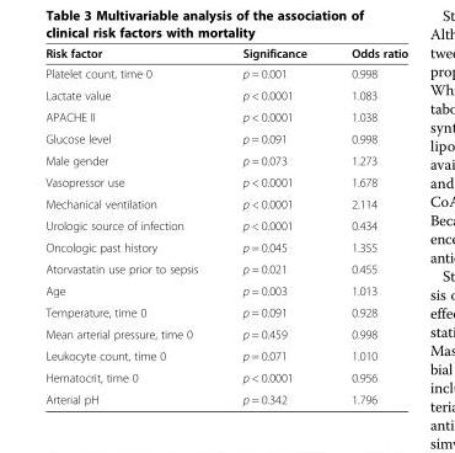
<table><thead><tr><td>Risk factor</td><td>Significance</td><td>Odds ratio</td></tr></thead><tbody><tr><td>Platelet count, time 0</td><td>p = 0.001</td><td>0.998</td></tr><tr><td>Lactate value</td><td>p &lt; 0.0001</td><td>1.083</td></tr><tr><td>APACHE II</td><td>p &lt; 0.0001</td><td>1.038</td></tr><tr><td>Glucose level</td><td>p = 0.091</td><td>0.998</td></tr><tr><td>Male gender</td><td>p = 0.073</td><td>1.273</td></tr><tr><td>Vasopressor use</td><td>p &lt; 0.0001</td><td>1.678</td></tr><tr><td>Mechanical ventilation</td><td>p &lt; 0.0001</td><td>2.114</td></tr><tr><td>Urologic source of infection</td><td>p &lt; 0.0001</td><td>0.434</td></tr><tr><td>Oncologic past history</td><td>p = 0.045</td><td>1.355</td></tr><tr><td>Atorvastatin use prior to sepsis</td><td>p = 0.021</td><td>0.455</td></tr><tr><td>Age</td><td>p = 0.003</td><td>1.013</td></tr><tr><td>Temperature, time 0</td><td>p = 0.091</td><td>0.928</td></tr><tr><td>Mean arterial pressure, time 0</td><td>p = 0.459</td><td>0.998</td></tr><tr><td>Leukocyte count, time 0</td><td>p = 0.071</td><td>1.010</td></tr><tr><td>Hematocrit, time 0</td><td>p &lt; 0.0001</td><td>0.956</td></tr><tr><td>Arterial pH</td><td>p = 0.342</td><td>1.796</td></tr></tbody></table>